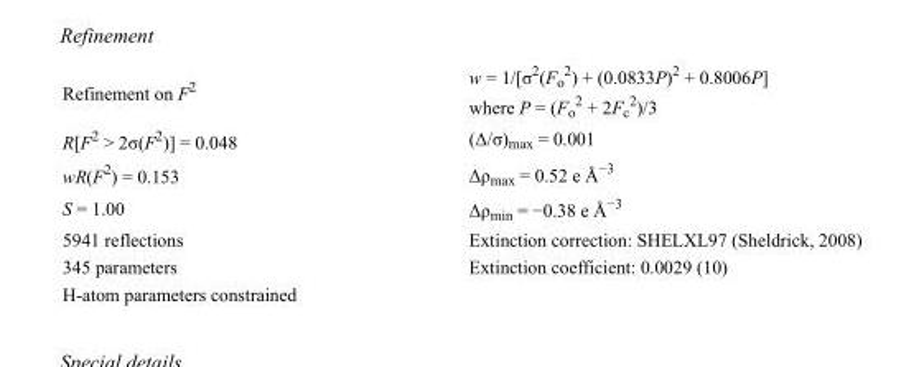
<table><tbody><tr><td>Refinement on F<sup>2</sup></td><td>w = 1/[σ<sup>2</sup>(F<sub>o</sub> <sup>2</sup>) + (0.0833P)<sup>2</sup> + 0.8006P] where P = (F<sub>o</sub> <sup>2</sup> + 2F<sub>c</sub> <sup>2</sup>)/3</td></tr><tr><td>R[F<sup>2</sup> &gt; 2σ(F<sup>2</sup>)] = 0.048</td><td>(Δ/σ)<sub>max</sub> = 0.001</td></tr><tr><td>wR(F<sup>2</sup>) = 0.153</td><td>Δρ<sub>max</sub> = 0.52 e Å<sup>−3</sup></td></tr><tr><td>S = 1.00</td><td>Δρ<sub>min</sub> = −0.38 e Å<sup>−3</sup></td></tr><tr><td>5941 reflections</td><td>Extinction correction: SHELXL97 (Sheldrick, 2008)</td></tr><tr><td>345 parameters</td><td>Extinction coefficient: 0.0029 (10)</td></tr><tr><td>H-atom parameters constrained</td><td></td></tr></tbody></table>